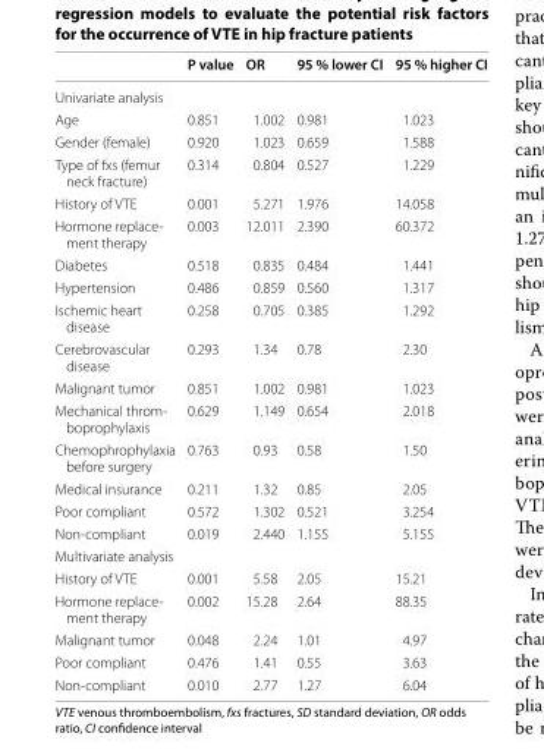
<table><thead><tr><td></td><td>P value</td><td>OR</td><td>95 % lower CI</td><td>95 % higher CI</td></tr></thead><tbody><tr><td colspan="5">Univariate analysis</td></tr><tr><td>Age</td><td>0.851</td><td>1.002</td><td>0.981</td><td>1.023</td></tr><tr><td>Gender (female)</td><td>0.920</td><td>1.023</td><td>0.659</td><td>1.588</td></tr><tr><td>Type of fxs (femur neck fracture)</td><td>0.314</td><td>0.804</td><td>0.527</td><td>1.229</td></tr><tr><td>History of VTE</td><td>0.001</td><td>5.271</td><td>1.976</td><td>14.058</td></tr><tr><td>Hormone replace- ment therapy</td><td>0.003</td><td>12.011</td><td>2.390</td><td>60.372</td></tr><tr><td>Diabetes</td><td>0.518</td><td>0.835</td><td>0.484</td><td>1.441</td></tr><tr><td>Hypertension</td><td>0.486</td><td>0.859</td><td>0.560</td><td>1.317</td></tr><tr><td>Ischemic heart disease</td><td>0.258</td><td>0.705</td><td>0.385</td><td>1.292</td></tr><tr><td>Cerebrovascular disease</td><td>0.293</td><td>1.34</td><td>0.78</td><td>2.30</td></tr><tr><td>Malignant tumor</td><td>0.851</td><td>1.002</td><td>0.981</td><td>1.023</td></tr><tr><td>Mechanical throm- boprophylaxis</td><td>0.629</td><td>1.149</td><td>0.654</td><td>2.018</td></tr><tr><td>Chemophrophylaxia before surgery</td><td>0.763</td><td>0.93</td><td>0.58</td><td>1.50</td></tr><tr><td>Medical insurance</td><td>0.211</td><td>1.32</td><td>0.85</td><td>2.05</td></tr><tr><td>Poor compliant</td><td>0.572</td><td>1.302</td><td>0.521</td><td>3.254</td></tr><tr><td>Non-compliant</td><td>0.019</td><td>2.440</td><td>1.155</td><td>5.155</td></tr><tr><td colspan="5">Multivariate analysis</td></tr><tr><td>History of VTE</td><td>0.001</td><td>5.58</td><td>2.05</td><td>15.21</td></tr><tr><td>Hormone replace- ment therapy</td><td>0.002</td><td>15.28</td><td>2.64</td><td>88.35</td></tr><tr><td>Malignant tumor</td><td>0.048</td><td>2.24</td><td>1.01</td><td>4.97</td></tr><tr><td>Poor compliant</td><td>0.476</td><td>1.41</td><td>0.55</td><td>3.63</td></tr><tr><td>Non-compliant</td><td>0.010</td><td>2.77</td><td>1.27</td><td>6.04</td></tr></tbody></table>